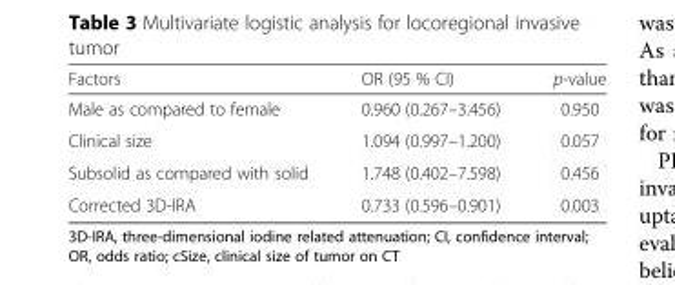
<table><thead><tr><td>Factors</td><td>OR (95 % CI)</td><td>p-value</td></tr></thead><tbody><tr><td>Male as compared to female</td><td>0.960 (0.267–3.456)</td><td>0.950</td></tr><tr><td>Clinical size</td><td>1.094 (0.997–1.200)</td><td>0.057</td></tr><tr><td>Subsolid as compared with solid</td><td>1.748 (0.402–7.598)</td><td>0.456</td></tr><tr><td>Corrected 3D-IRA</td><td>0.733 (0.596–0.901)</td><td>0.003</td></tr></tbody></table>